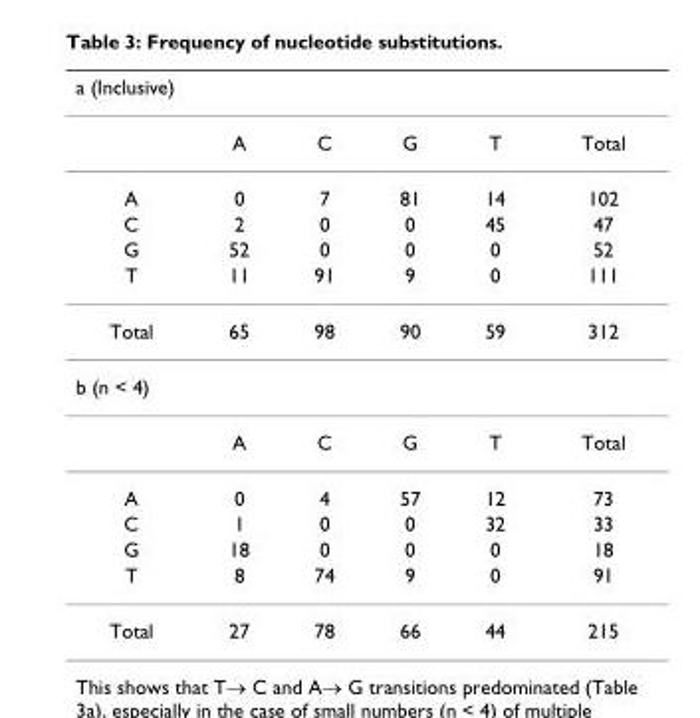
<table><thead><tr><td colspan="6">a (Inclusive)</td></tr><tr><td></td><td>A</td><td>C</td><td>G</td><td>T</td><td>Total</td></tr></thead><tbody><tr><td>A</td><td>0</td><td>7</td><td>81</td><td>14</td><td>102</td></tr><tr><td>C</td><td>2</td><td>0</td><td>0</td><td>45</td><td>47</td></tr><tr><td>G</td><td>52</td><td>0</td><td>0</td><td>0</td><td>52</td></tr><tr><td>T</td><td>11</td><td>91</td><td>9</td><td>0</td><td>111</td></tr><tr><td>Total</td><td>65</td><td>98</td><td>90</td><td>59</td><td>312</td></tr><tr><td colspan="6">b (n &lt; 4)</td></tr><tr><td></td><td>A</td><td>C</td><td>G</td><td>T</td><td>Total</td></tr><tr><td>A</td><td>0</td><td>4</td><td>57</td><td>12</td><td>73</td></tr><tr><td>C</td><td>1</td><td>0</td><td>0</td><td>32</td><td>33</td></tr><tr><td>G</td><td>18</td><td>0</td><td>0</td><td>0</td><td>18</td></tr><tr><td>T</td><td>8</td><td>74</td><td>9</td><td>0</td><td>91</td></tr><tr><td>Total</td><td>27</td><td>78</td><td>66</td><td>44</td><td>215</td></tr></tbody></table>